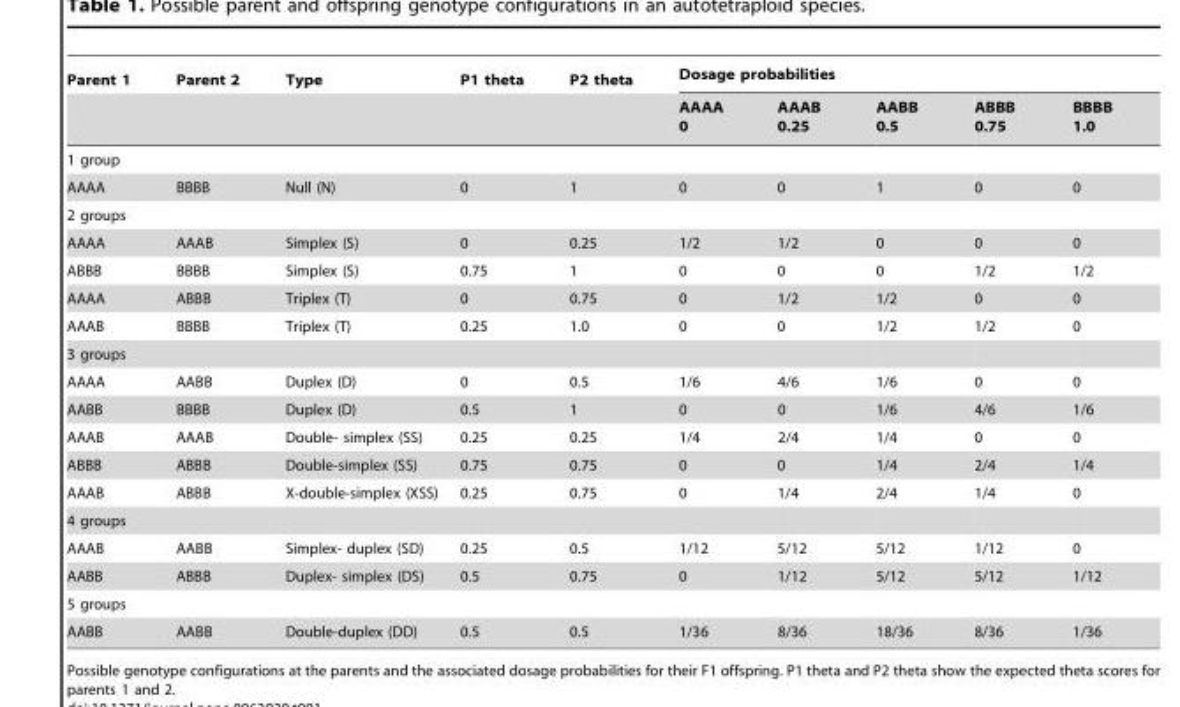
<table><thead><tr><td rowspan="2">Parent 1</td><td rowspan="2">Parent 2</td><td rowspan="2">Type</td><td rowspan="2">P1 theta</td><td rowspan="2">P2 theta</td><td colspan="5">Dosage probabilities</td></tr><tr><td>AAAA 0</td><td>AAAB 0.25</td><td>AABB 0.5</td><td>ABBB 0.75</td><td>BBBB 1.0</td></tr></thead><tbody><tr><td colspan="10">1 group</td></tr><tr><td>AAAA</td><td>BBBB</td><td>Null (N)</td><td>0</td><td>1</td><td>0</td><td>0</td><td>1</td><td>0</td><td>0</td></tr><tr><td colspan="10">2 groups</td></tr><tr><td>AAAA</td><td>AAAB</td><td>Simplex (S)</td><td>0</td><td>0.25</td><td>1/2</td><td>1/2</td><td>0</td><td>0</td><td>0</td></tr><tr><td>ABBB</td><td>BBBB</td><td>Simplex (S)</td><td>0.75</td><td>1</td><td>0</td><td>0</td><td>0</td><td>1/2</td><td>1/2</td></tr><tr><td>AAAA</td><td>ABBB</td><td>Triplex (T)</td><td>0</td><td>0.75</td><td>0</td><td>1/2</td><td>1/2</td><td>0</td><td>0</td></tr><tr><td>AAAB</td><td>BBBB</td><td>Triplex (T)</td><td>0.25</td><td>1.0</td><td>0</td><td>0</td><td>1/2</td><td>1/2</td><td>0</td></tr><tr><td colspan="10">3 groups</td></tr><tr><td>AAAA</td><td>AABB</td><td>Duplex (D)</td><td>0</td><td>0.5</td><td>1/6</td><td>4/6</td><td>1/6</td><td>0</td><td>0</td></tr><tr><td>AABB</td><td>BBBB</td><td>Duplex (D)</td><td>0.5</td><td>1</td><td>0</td><td>0</td><td>1/6</td><td>4/6</td><td>1/6</td></tr><tr><td>AAAB</td><td>AAAB</td><td>Double- simplex (SS)</td><td>0.25</td><td>0.25</td><td>1/4</td><td>2/4</td><td>1/4</td><td>0</td><td>0</td></tr><tr><td>ABBB</td><td>ABBB</td><td>Double-simplex (SS)</td><td>0.75</td><td>0.75</td><td>0</td><td>0</td><td>1/4</td><td>2/4</td><td>1/4</td></tr><tr><td>AAAB</td><td>ABBB</td><td>X-double-simplex (XSS)</td><td>0.25</td><td>0.75</td><td>0</td><td>1/4</td><td>2/4</td><td>1/4</td><td>0</td></tr><tr><td colspan="10">4 groups</td></tr><tr><td>AAAB</td><td>AABB</td><td>Simplex- duplex (SD)</td><td>0.25</td><td>0.5</td><td>1/12</td><td>5/12</td><td>5/12</td><td>1/12</td><td>0</td></tr><tr><td>AABB</td><td>ABBB</td><td>Duplex- simplex (DS)</td><td>0.5</td><td>0.75</td><td>0</td><td>1/12</td><td>5/12</td><td>5/12</td><td>1/12</td></tr><tr><td colspan="10">5 groups</td></tr><tr><td>AABB</td><td>AABB</td><td>Double-duplex (DD)</td><td>0.5</td><td>0.5</td><td>1/36</td><td>8/36</td><td>18/36</td><td>8/36</td><td>1/36</td></tr></tbody></table>